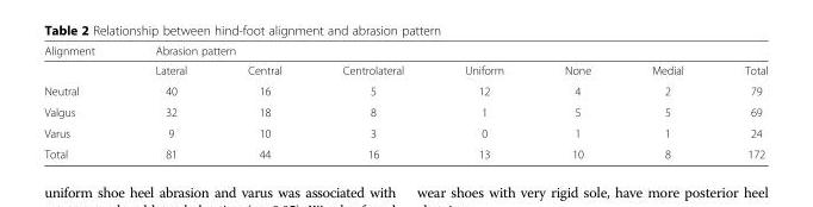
<table><thead><tr><td rowspan="2">Alignment</td><td colspan="7">Abrasion pattern</td></tr><tr><td>Lateral</td><td>Central</td><td>Centrolateral</td><td>Uniform</td><td>None</td><td>Medial</td><td>Total</td></tr></thead><tbody><tr><td>Neutral</td><td>40</td><td>16</td><td>5</td><td>12</td><td>4</td><td>2</td><td>79</td></tr><tr><td>Valgus</td><td>32</td><td>18</td><td>8</td><td>1</td><td>5</td><td>5</td><td>69</td></tr><tr><td>Varus</td><td>9</td><td>10</td><td>3</td><td>0</td><td>1</td><td>1</td><td>24</td></tr><tr><td>Total</td><td>81</td><td>44</td><td>16</td><td>13</td><td>10</td><td>8</td><td>172</td></tr></tbody></table>